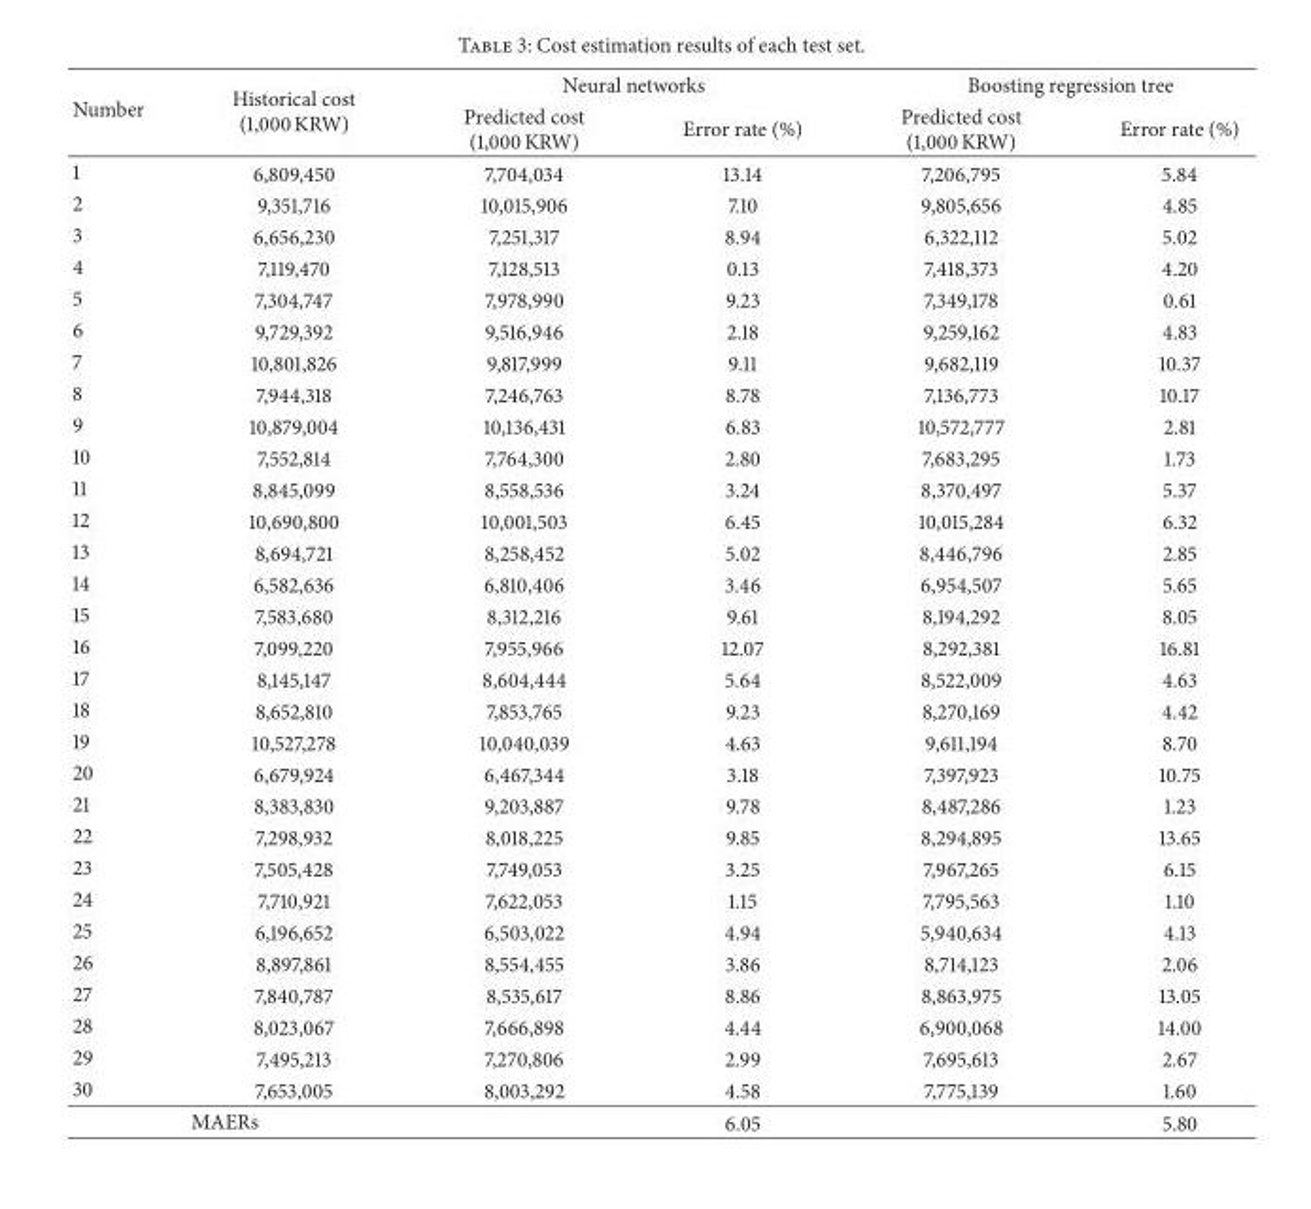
<table><thead><tr><td rowspan="2">Number</td><td rowspan="2">Historical cost (1,000 KRW)</td><td colspan="2">Neural networks</td><td colspan="2">Boosting regression tree</td></tr><tr><td>Predicted cost (1,000 KRW)</td><td>Error rate (%)</td><td>Predicted cost (1,000 KRW)</td><td>Error rate (%)</td></tr></thead><tbody><tr><td>1</td><td>6,809,450</td><td>7,704,034</td><td>13.14</td><td>7,206,795</td><td>5.84</td></tr><tr><td>2</td><td>9,351,716</td><td>10,015,906</td><td>7.10</td><td>9,805,656</td><td>4.85</td></tr><tr><td>3</td><td>6,656,230</td><td>7,251,317</td><td>8.94</td><td>6,322,112</td><td>5.02</td></tr><tr><td>4</td><td>7,119,470</td><td>7,128,513</td><td>0.13</td><td>7,418,373</td><td>4.20</td></tr><tr><td>5</td><td>7,304,747</td><td>7,978,990</td><td>9.23</td><td>7,349,178</td><td>0.61</td></tr><tr><td>6</td><td>9,729,392</td><td>9,516,946</td><td>2.18</td><td>9,259,162</td><td>4.83</td></tr><tr><td>7</td><td>10,801,826</td><td>9,817,999</td><td>9.11</td><td>9,682,119</td><td>10.37</td></tr><tr><td>8</td><td>7,944,318</td><td>7,246,763</td><td>8.78</td><td>7,136,773</td><td>10.17</td></tr><tr><td>9</td><td>10,879,004</td><td>10,136,431</td><td>6.83</td><td>10,572,777</td><td>2.81</td></tr><tr><td>10</td><td>7,552,814</td><td>7,764,300</td><td>2.80</td><td>7,683,295</td><td>1.73</td></tr><tr><td>11</td><td>8,845,099</td><td>8,558,536</td><td>3.24</td><td>8,370,497</td><td>5.37</td></tr><tr><td>12</td><td>10,690,800</td><td>10,001,503</td><td>6.45</td><td>10,015,284</td><td>6.32</td></tr><tr><td>13</td><td>8,694,721</td><td>8,258,452</td><td>5.02</td><td>8,446,796</td><td>2.85</td></tr><tr><td>14</td><td>6,582,636</td><td>6,810,406</td><td>3.46</td><td>6,954,507</td><td>5.65</td></tr><tr><td>15</td><td>7,583,680</td><td>8,312,216</td><td>9.61</td><td>8,194,292</td><td>8.05</td></tr><tr><td>16</td><td>7,099,220</td><td>7,955,966</td><td>12.07</td><td>8,292,381</td><td>16.81</td></tr><tr><td>17</td><td>8,145,147</td><td>8,604,444</td><td>5.64</td><td>8,522,009</td><td>4.63</td></tr><tr><td>18</td><td>8,652,810</td><td>7,853,765</td><td>9.23</td><td>8,270,169</td><td>4.42</td></tr><tr><td>19</td><td>10,527,278</td><td>10,040,039</td><td>4.63</td><td>9,611,194</td><td>8.70</td></tr><tr><td>20</td><td>6,679,924</td><td>6,467,344</td><td>3.18</td><td>7,397,923</td><td>10.75</td></tr><tr><td>21</td><td>8,383,830</td><td>9,203,887</td><td>9.78</td><td>8,487,286</td><td>1.23</td></tr><tr><td>22</td><td>7,298,932</td><td>8,018,225</td><td>9.85</td><td>8,294,895</td><td>13.65</td></tr><tr><td>23</td><td>7,505,428</td><td>7,749,053</td><td>3.25</td><td>7,967,265</td><td>6.15</td></tr><tr><td>24</td><td>7,710,921</td><td>7,622,053</td><td>1.15</td><td>7,795,563</td><td>1.10</td></tr><tr><td>25</td><td>6,196,652</td><td>6,503,022</td><td>4.94</td><td>5,940,634</td><td>4.13</td></tr><tr><td>26</td><td>8,897,861</td><td>8,554,455</td><td>3.86</td><td>8,714,123</td><td>2.06</td></tr><tr><td>27</td><td>7,840,787</td><td>8,535,617</td><td>8.86</td><td>8,863,975</td><td>13.05</td></tr><tr><td>28</td><td>8,023,067</td><td>7,666,898</td><td>4.44</td><td>6,900,068</td><td>14.00</td></tr><tr><td>29</td><td>7,495,213</td><td>7,270,806</td><td>2.99</td><td>7,695,613</td><td>2.67</td></tr><tr><td>30</td><td>7,653,005</td><td>8,003,292</td><td>4.58</td><td>7,775,139</td><td>1.60</td></tr><tr><td colspan="2">MAERs</td><td></td><td>6.05</td><td></td><td>5.80</td></tr></tbody></table>